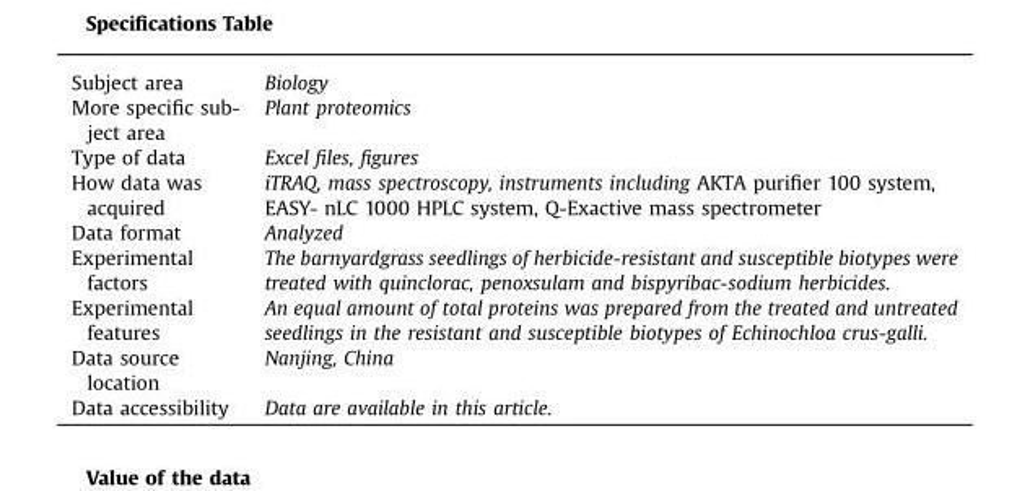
<table><tbody><tr><td>Subject area</td><td>Biology</td></tr><tr><td>More specific sub- ject area</td><td>Plant proteomics</td></tr><tr><td>Type of data</td><td>Excel files, figures</td></tr><tr><td>How data was acquired</td><td>iTRAQ, mass spectroscopy, instruments including AKTA purifier 100 system, EASY- nLC 1000 HPLC system, Q-Exactive mass spectrometer</td></tr><tr><td>Data format</td><td>Analyzed</td></tr><tr><td>Experimental factors</td><td>The barnyardgrass seedlings of herbicide-resistant and susceptible biotypes were treated with quinclorac, penoxsulam and bispyribac-sodium herbicides.</td></tr><tr><td>Experimental features</td><td>An equal amount of total proteins was prepared from the treated and untreated seedlings in the resistant and susceptible biotypes of Echinochloa crus-galli.</td></tr><tr><td>Data source location</td><td>Nanjing, China</td></tr><tr><td>Data accessibility</td><td>Data are available in this article.</td></tr></tbody></table>